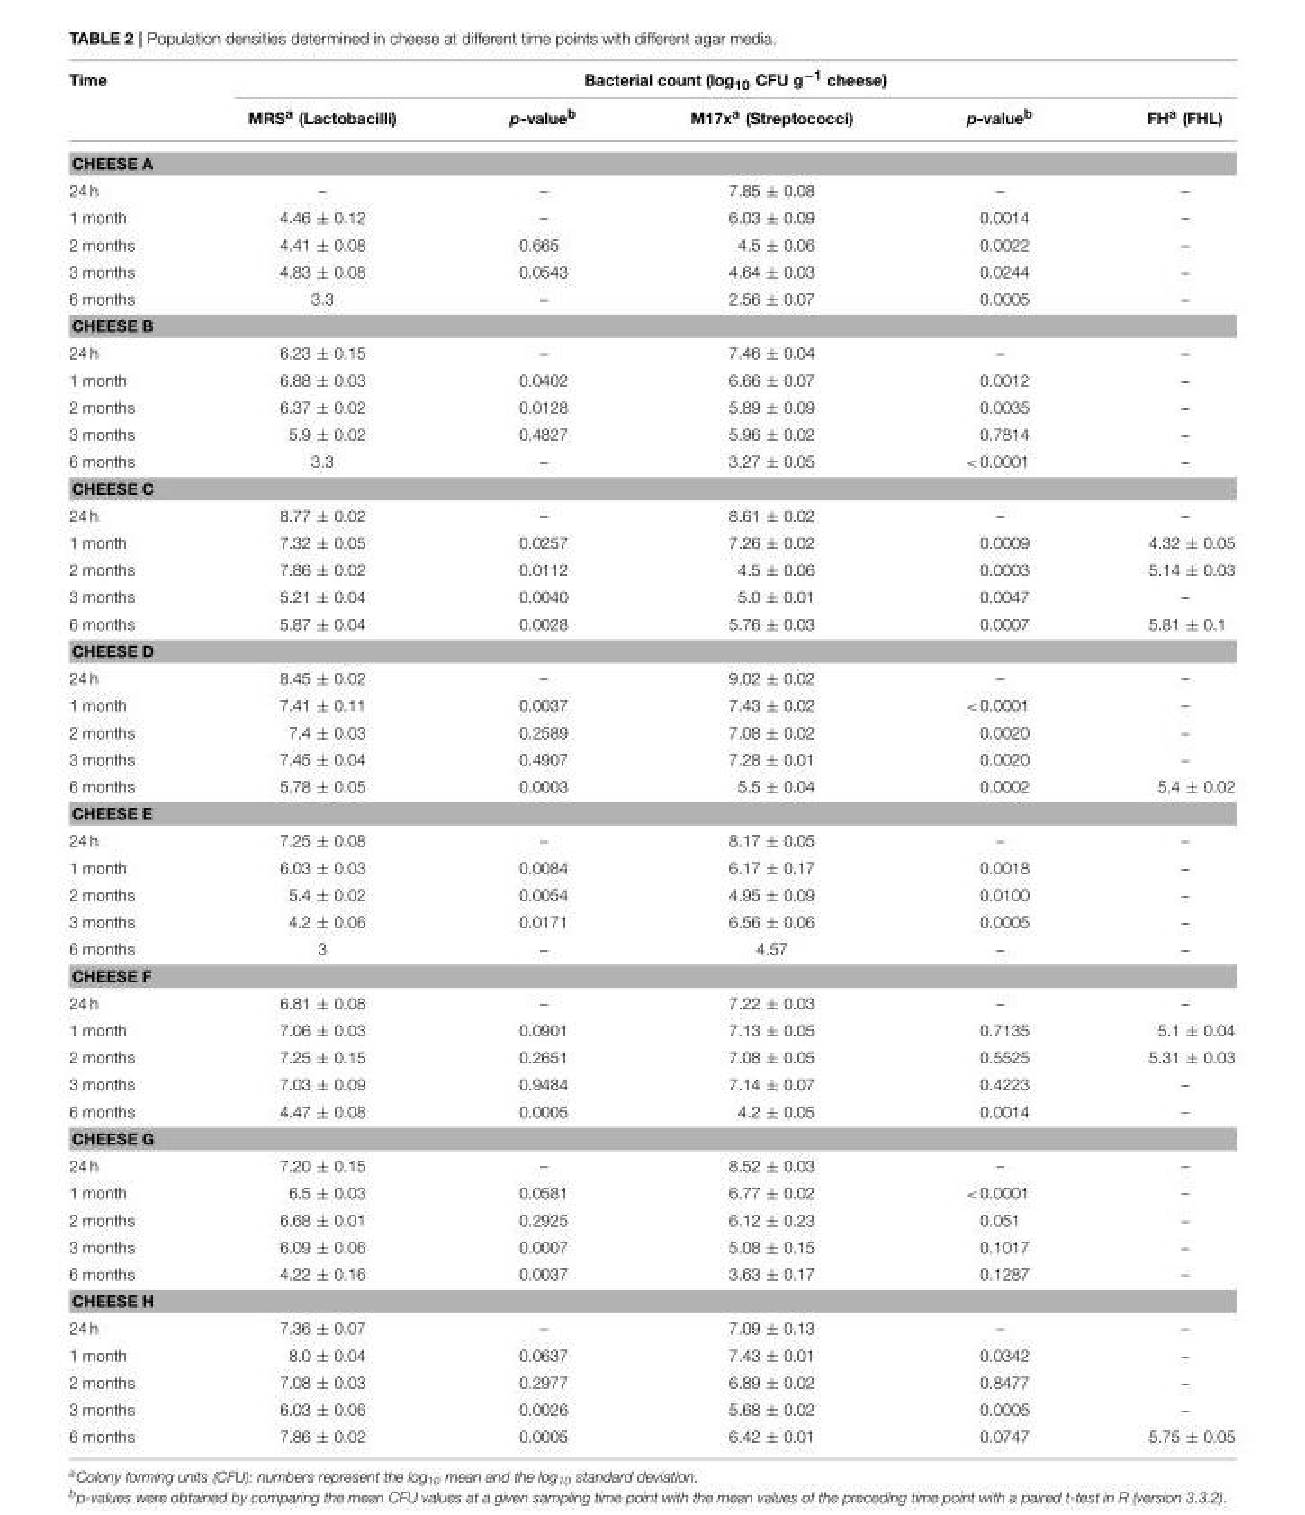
<table><thead><tr><td rowspan="2">Time</td><td colspan="5">Bacterial count (log<sub>10</sub> CFU g<sup>−1</sup> cheese)</td></tr><tr><td>MRS<sup>a</sup> (Lactobacilli)</td><td>p-value<sup>b</sup></td><td>M17x<sup>a</sup> (Streptococci)</td><td>p-value<sup>b</sup></td><td>FH<sup>a</sup> (FHL)</td></tr></thead><tbody><tr><td colspan="6">CHEESE A</td></tr><tr><td>24 h</td><td>–</td><td>–</td><td>7.85 ± 0.08</td><td>–</td><td>–</td></tr><tr><td>1 month</td><td>4.46 ± 0.12</td><td>–</td><td>6.03 ± 0.09</td><td>0.0014</td><td>–</td></tr><tr><td>2 months</td><td>4.41 ± 0.08</td><td>0.665</td><td>4.5 ± 0.06</td><td>0.0022</td><td>–</td></tr><tr><td>3 months</td><td>4.83 ± 0.08</td><td>0.0543</td><td>4.64 ± 0.03</td><td>0.0244</td><td>–</td></tr><tr><td>6 months</td><td>3.3</td><td>–</td><td>2.56 ± 0.07</td><td>0.0005</td><td>–</td></tr><tr><td colspan="6">CHEESE B</td></tr><tr><td>24 h</td><td>6.23 ± 0.15</td><td>–</td><td>7.46 ± 0.04</td><td>–</td><td>–</td></tr><tr><td>1 month</td><td>6.88 ± 0.03</td><td>0.0402</td><td>6.66 ± 0.07</td><td>0.0012</td><td>–</td></tr><tr><td>2 months</td><td>6.37 ± 0.02</td><td>0.0128</td><td>5.89 ± 0.09</td><td>0.0035</td><td>–</td></tr><tr><td>3 months</td><td>5.9 ± 0.02</td><td>0.4827</td><td>5.96 ± 0.02</td><td>0.7814</td><td>–</td></tr><tr><td>6 months</td><td>3.3</td><td>–</td><td>3.27 ± 0.05</td><td>&lt;0.0001</td><td>–</td></tr><tr><td colspan="6">CHEESE C</td></tr><tr><td>24 h</td><td>8.77 ± 0.02</td><td>–</td><td>8.61 ± 0.02</td><td>–</td><td>–</td></tr><tr><td>1 month</td><td>7.32 ± 0.05</td><td>0.0257</td><td>7.26 ± 0.02</td><td>0.0009</td><td>4.32 ± 0.05</td></tr><tr><td>2 months</td><td>7.86 ± 0.02</td><td>0.0112</td><td>4.5 ± 0.06</td><td>0.0003</td><td>5.14 ± 0.03</td></tr><tr><td>3 months</td><td>5.21 ± 0.04</td><td>0.0040</td><td>5.0 ± 0.01</td><td>0.0047</td><td>–</td></tr><tr><td>6 months</td><td>5.87 ± 0.04</td><td>0.0028</td><td>5.76 ± 0.03</td><td>0.0007</td><td>5.81 ± 0.1</td></tr><tr><td colspan="6">CHEESE D</td></tr><tr><td>24 h</td><td>8.45 ± 0.02</td><td>–</td><td>9.02 ± 0.02</td><td>–</td><td>–</td></tr><tr><td>1 month</td><td>7.41 ± 0.11</td><td>0.0037</td><td>7.43 ± 0.02</td><td>&lt;0.0001</td><td>–</td></tr><tr><td>2 months</td><td>7.4 ± 0.03</td><td>0.2589</td><td>7.08 ± 0.02</td><td>0.0020</td><td>–</td></tr><tr><td>3 months</td><td>7.45 ± 0.04</td><td>0.4907</td><td>7.28 ± 0.01</td><td>0.0020</td><td>–</td></tr><tr><td>6 months</td><td>5.78 ± 0.05</td><td>0.0003</td><td>5.5 ± 0.04</td><td>0.0002</td><td>5.4 ± 0.02</td></tr><tr><td colspan="6">CHEESE E</td></tr><tr><td>24 h</td><td>7.25 ± 0.08</td><td>–</td><td>8.17 ± 0.05</td><td>–</td><td>–</td></tr><tr><td>1 month</td><td>6.03 ± 0.03</td><td>0.0084</td><td>6.17 ± 0.17</td><td>0.0018</td><td>–</td></tr><tr><td>2 months</td><td>5.4 ± 0.02</td><td>0.0054</td><td>4.95 ± 0.09</td><td>0.0100</td><td>–</td></tr><tr><td>3 months</td><td>4.2 ± 0.06</td><td>0.0171</td><td>6.56 ± 0.06</td><td>0.0005</td><td>–</td></tr><tr><td>6 months</td><td>3</td><td>–</td><td>4.57</td><td>–</td><td>–</td></tr><tr><td colspan="6">CHEESE F</td></tr><tr><td>24 h</td><td>6.81 ± 0.08</td><td>–</td><td>7.22 ± 0.03</td><td>–</td><td>–</td></tr><tr><td>1 month</td><td>7.06 ± 0.03</td><td>0.0901</td><td>7.13 ± 0.05</td><td>0.7135</td><td>5.1 ± 0.04</td></tr><tr><td>2 months</td><td>7.25 ± 0.15</td><td>0.2651</td><td>7.08 ± 0.05</td><td>0.5525</td><td>5.31 ± 0.03</td></tr><tr><td>3 months</td><td>7.03 ± 0.09</td><td>0.9484</td><td>7.14 ± 0.07</td><td>0.4223</td><td>–</td></tr><tr><td>6 months</td><td>4.47 ± 0.08</td><td>0.0005</td><td>4.2 ± 0.05</td><td>0.0014</td><td>–</td></tr><tr><td colspan="6">CHEESE G</td></tr><tr><td>24 h</td><td>7.20 ± 0.15</td><td>–</td><td>8.52 ± 0.03</td><td>–</td><td>–</td></tr><tr><td>1 month</td><td>6.5 ± 0.03</td><td>0.0581</td><td>6.77 ± 0.02</td><td>&lt;0.0001</td><td>–</td></tr><tr><td>2 months</td><td>6.68 ± 0.01</td><td>0.2925</td><td>6.12 ± 0.23</td><td>0.051</td><td>–</td></tr><tr><td>3 months</td><td>6.09 ± 0.06</td><td>0.0007</td><td>5.08 ± 0.15</td><td>0.1017</td><td>–</td></tr><tr><td>6 months</td><td>4.22 ± 0.16</td><td>0.0037</td><td>3.63 ± 0.17</td><td>0.1287</td><td>–</td></tr><tr><td colspan="6">CHEESE H</td></tr><tr><td>24 h</td><td>7.36 ± 0.07</td><td>–</td><td>7.09 ± 0.13</td><td>–</td><td>–</td></tr><tr><td>1 month</td><td>8.0 ± 0.04</td><td>0.0637</td><td>7.43 ± 0.01</td><td>0.0342</td><td>–</td></tr><tr><td>2 months</td><td>7.08 ± 0.03</td><td>0.2977</td><td>6.89 ± 0.02</td><td>0.8477</td><td>–</td></tr><tr><td>3 months</td><td>6.03 ± 0.06</td><td>0.0026</td><td>5.68 ± 0.02</td><td>0.0005</td><td>–</td></tr><tr><td>6 months</td><td>7.86 ± 0.02</td><td>0.0005</td><td>6.42 ± 0.01</td><td>0.0747</td><td>5.75 ± 0.05</td></tr></tbody></table>